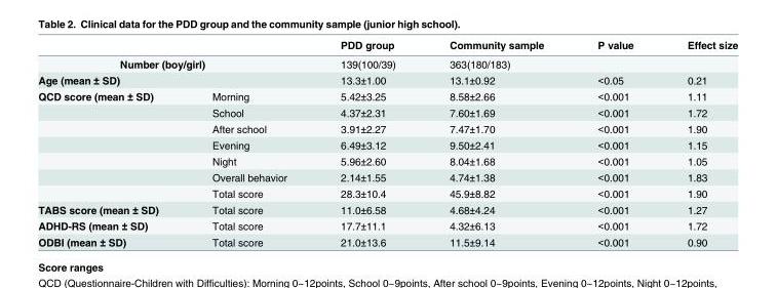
<table><thead><tr><td></td><td></td><td>PDD group</td><td>Community sample</td><td>P value</td><td>Effect size</td></tr></thead><tbody><tr><td colspan="2">Number (boy/girl)</td><td>139(100/39)</td><td>363(180/183)</td><td></td><td></td></tr><tr><td>Age (mean ± SD)</td><td></td><td>13.3±1.00</td><td>13.1±0.92</td><td>&lt;0.05</td><td>0.21</td></tr><tr><td rowspan="7">QCD score (mean ± SD)</td><td>Morning</td><td>5.42±3.25</td><td>8.58±2.66</td><td>&lt;0.001</td><td>1.11</td></tr><tr><td>School</td><td>4.37±2.31</td><td>7.60±1.69</td><td>&lt;0.001</td><td>1.72</td></tr><tr><td>After school</td><td>3.91±2.27</td><td>7.47±1.70</td><td>&lt;0.001</td><td>1.90</td></tr><tr><td>Evening</td><td>6.49±3.12</td><td>9.50±2.41</td><td>&lt;0.001</td><td>1.15</td></tr><tr><td>Night</td><td>5.96±2.60</td><td>8.04±1.68</td><td>&lt;0.001</td><td>1.05</td></tr><tr><td>Overall behavior</td><td>2.14±1.55</td><td>4.74±1.38</td><td>&lt;0.001</td><td>1.83</td></tr><tr><td>Total score</td><td>28.3±10.4</td><td>45.9±8.82</td><td>&lt;0.001</td><td>1.90</td></tr><tr><td>TABS score (mean ± SD)</td><td>Total score</td><td>11.0±6.58</td><td>4.68±4.24</td><td>&lt;0.001</td><td>1.27</td></tr><tr><td>ADHD-RS (mean ± SD)</td><td>Total score</td><td>17.7±11.1</td><td>4.32±6.13</td><td>&lt;0.001</td><td>1.72</td></tr><tr><td>ODBI (mean ± SD)</td><td>Total score</td><td>21.0±13.6</td><td>11.5±9.14</td><td>&lt;0.001</td><td>0.90</td></tr></tbody></table>